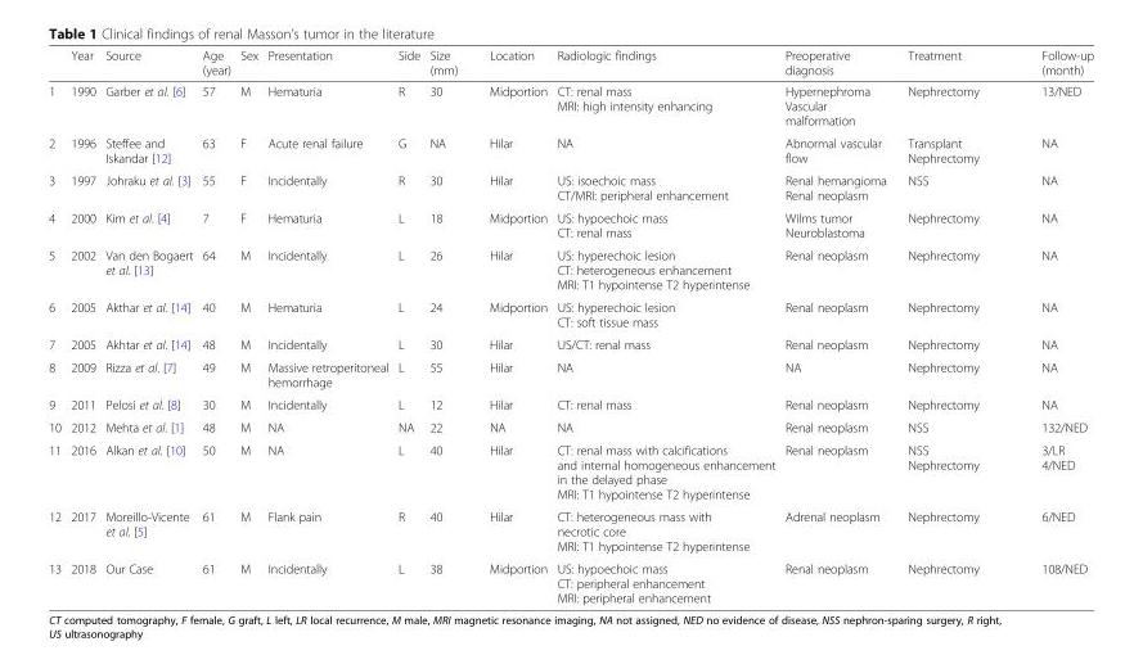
<table><thead><tr><td></td><td>Year</td><td>Source</td><td>Age (year)</td><td>Sex</td><td>Presentation</td><td>Side</td><td>Size (mm)</td><td>Location</td><td>Radiologic findings</td><td>Preoperative diagnosis</td><td>Treatment</td><td>Follow-up (month)</td></tr></thead><tbody><tr><td>1</td><td>1990</td><td>Garber et al. [6]</td><td>57</td><td>M</td><td>Hematuria</td><td>R</td><td>30</td><td>Midportion</td><td>CT: renal mass MRI: high intensity enhancing</td><td>Hypernephroma Vascular malformation</td><td>Nephrectomy</td><td>13/NED</td></tr><tr><td>2</td><td>1996</td><td>Steffee and Iskandar [12]</td><td>63</td><td>F</td><td>Acute renal failure</td><td>G</td><td>NA</td><td>Hilar</td><td>NA</td><td>Abnormal vascular flow</td><td>Transplant Nephrectomy</td><td>NA</td></tr><tr><td>3</td><td>1997</td><td>Johraku et al. [3]</td><td>55</td><td>F</td><td>Incidentally</td><td>R</td><td>30</td><td>Hilar</td><td>US: isoechoic mass CT/MRI: peripheral enhancement</td><td>Renal hemangioma Renal neoplasm</td><td>NSS</td><td>NA</td></tr><tr><td>4</td><td>2000</td><td>Kim et al. [4]</td><td>7</td><td>F</td><td>Hematuria</td><td>L</td><td>18</td><td>Midportion</td><td>US: hypoechoic mass CT: renal mass</td><td>Wilms tumor Neuroblastoma</td><td>Nephrectomy</td><td>NA</td></tr><tr><td>5</td><td>2002</td><td>Van den Bogaert et al. [13]</td><td>64</td><td>M</td><td>Incidentally</td><td>L</td><td>26</td><td>Hilar</td><td>US: hyperechoic lesion CT: heterogeneous enhancement MRI: T1 hypointense T2 hyperintense</td><td>Renal neoplasm</td><td>Nephrectomy</td><td>NA</td></tr><tr><td>6</td><td>2005</td><td>Akthar et al. [14]</td><td>40</td><td>M</td><td>Hematuria</td><td>L</td><td>24</td><td>Midportion</td><td>US: hyperechoic lesion CT: soft tissue mass</td><td>Renal neoplasm</td><td>Nephrectomy</td><td>NA</td></tr><tr><td>7</td><td>2005</td><td>Akhtar et al. [14]</td><td>48</td><td>M</td><td>Incidentally</td><td>L</td><td>30</td><td>Hilar</td><td>US/CT: renal mass</td><td>Renal neoplasm</td><td>Nephrectomy</td><td>NA</td></tr><tr><td>8</td><td>2009</td><td>Rizza et al. [7]</td><td>49</td><td>M</td><td>Massive retroperitoneal hemorrhage</td><td>L</td><td>55</td><td>Hilar</td><td>NA</td><td>NA</td><td>Nephrectomy</td><td>NA</td></tr><tr><td>9</td><td>2011</td><td>Pelosi et al. [8]</td><td>30</td><td>M</td><td>Incidentally</td><td>L</td><td>12</td><td>Hilar</td><td>CT: renal mass</td><td>Renal neoplasm</td><td>Nephrectomy</td><td>NA</td></tr><tr><td>10</td><td>2012</td><td>Mehta et al. [1]</td><td>48</td><td>M</td><td>NA</td><td>NA</td><td>22</td><td>NA</td><td>NA</td><td>Renal neoplasm</td><td>NSS</td><td>132/NED</td></tr><tr><td>11</td><td>2016</td><td>Alkan et al. [10]</td><td>50</td><td>M</td><td>NA</td><td>L</td><td>40</td><td>Hilar</td><td>CT: renal mass with calcifications and internal homogeneous enhancement in the delayed phase MRI: T1 hypointense T2 hyperintense</td><td>Renal neoplasm</td><td>NSS Nephrectomy</td><td>3/LR 4/NED</td></tr><tr><td>12</td><td>2017</td><td>Moreillo-Vicente et al. [5]</td><td>61</td><td>M</td><td>Flank pain</td><td>R</td><td>40</td><td>Hilar</td><td>CT: heterogeneous mass with necrotic core MRI: T1 hypointense T2 hyperintense</td><td>Adrenal neoplasm</td><td>Nephrectomy</td><td>6/NED</td></tr><tr><td>13</td><td>2018</td><td>Our Case</td><td>61</td><td>M</td><td>Incidentally</td><td>L</td><td>38</td><td>Midportion</td><td>US: hypoechoic mass CT: peripheral enhancement MRI: peripheral enhancement</td><td>Renal neoplasm</td><td>Nephrectomy</td><td>108/NED</td></tr></tbody></table>